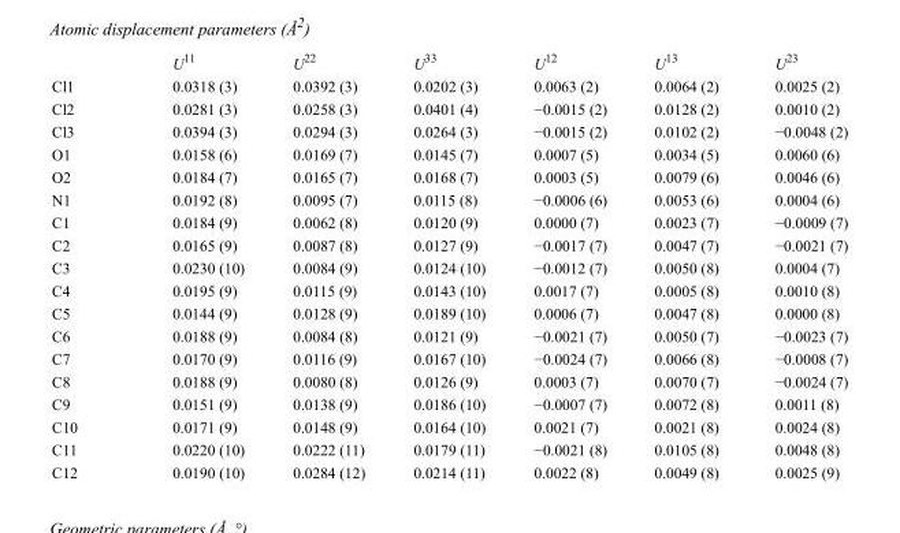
<table><thead><tr><td></td><td>U<sup>11</sup></td><td>U<sup>22</sup></td><td>U<sup>33</sup></td><td>U<sup>12</sup></td><td>U<sup>13</sup></td><td>U<sup>23</sup></td></tr></thead><tbody><tr><td>Cl1</td><td>0.0318 (3)</td><td>0.0392 (3)</td><td>0.0202 (3)</td><td>0.0063 (2)</td><td>0.0064 (2)</td><td>0.0025 (2)</td></tr><tr><td>Cl2</td><td>0.0281 (3)</td><td>0.0258 (3)</td><td>0.0401 (4)</td><td>−0.0015 (2)</td><td>0.0128 (2)</td><td>0.0010 (2)</td></tr><tr><td>Cl3</td><td>0.0394 (3)</td><td>0.0294 (3)</td><td>0.0264 (3)</td><td>−0.0015 (2)</td><td>0.0102 (2)</td><td>−0.0048 (2)</td></tr><tr><td>O1</td><td>0.0158 (6)</td><td>0.0169 (7)</td><td>0.0145 (7)</td><td>0.0007 (5)</td><td>0.0034 (5)</td><td>0.0060 (6)</td></tr><tr><td>O2</td><td>0.0184 (7)</td><td>0.0165 (7)</td><td>0.0168 (7)</td><td>0.0003 (5)</td><td>0.0079 (6)</td><td>0.0046 (6)</td></tr><tr><td>N1</td><td>0.0192 (8)</td><td>0.0095 (7)</td><td>0.0115 (8)</td><td>−0.0006 (6)</td><td>0.0053 (6)</td><td>0.0004 (6)</td></tr><tr><td>C1</td><td>0.0184 (9)</td><td>0.0062 (8)</td><td>0.0120 (9)</td><td>0.0000 (7)</td><td>0.0023 (7)</td><td>−0.0009 (7)</td></tr><tr><td>C2</td><td>0.0165 (9)</td><td>0.0087 (8)</td><td>0.0127 (9)</td><td>−0.0017 (7)</td><td>0.0047 (7)</td><td>−0.0021 (7)</td></tr><tr><td>C3</td><td>0.0230 (10)</td><td>0.0084 (9)</td><td>0.0124 (10)</td><td>−0.0012 (7)</td><td>0.0050 (8)</td><td>0.0004 (7)</td></tr><tr><td>C4</td><td>0.0195 (9)</td><td>0.0115 (9)</td><td>0.0143 (10)</td><td>0.0017 (7)</td><td>0.0005 (8)</td><td>0.0010 (8)</td></tr><tr><td>C5</td><td>0.0144 (9)</td><td>0.0128 (9)</td><td>0.0189 (10)</td><td>0.0006 (7)</td><td>0.0047 (8)</td><td>0.0000 (8)</td></tr><tr><td>C6</td><td>0.0188 (9)</td><td>0.0084 (8)</td><td>0.0121 (9)</td><td>−0.0021 (7)</td><td>0.0050 (7)</td><td>−0.0023 (7)</td></tr><tr><td>C7</td><td>0.0170 (9)</td><td>0.0116 (9)</td><td>0.0167 (10)</td><td>−0.0024 (7)</td><td>0.0066 (8)</td><td>−0.0008 (7)</td></tr><tr><td>C8</td><td>0.0188 (9)</td><td>0.0080 (8)</td><td>0.0126 (9)</td><td>0.0003 (7)</td><td>0.0070 (7)</td><td>−0.0024 (7)</td></tr><tr><td>C9</td><td>0.0151 (9)</td><td>0.0138 (9)</td><td>0.0186 (10)</td><td>−0.0007 (7)</td><td>0.0072 (8)</td><td>0.0011 (8)</td></tr><tr><td>C10</td><td>0.0171 (9)</td><td>0.0148 (9)</td><td>0.0164 (10)</td><td>0.0021 (7)</td><td>0.0021 (8)</td><td>0.0024 (8)</td></tr><tr><td>C11</td><td>0.0220 (10)</td><td>0.0222 (11)</td><td>0.0179 (11)</td><td>−0.0021 (8)</td><td>0.0105 (8)</td><td>0.0048 (8)</td></tr><tr><td>C12</td><td>0.0190 (10)</td><td>0.0284 (12)</td><td>0.0214 (11)</td><td>0.0022 (8)</td><td>0.0049 (8)</td><td>0.0025 (9)</td></tr></tbody></table>